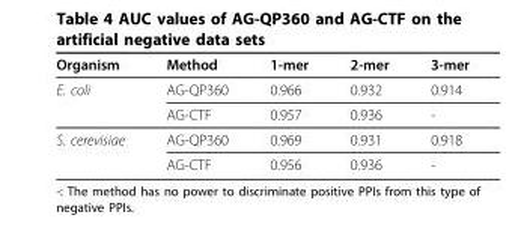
<table><thead><tr><td>Organism</td><td>Method</td><td>1-mer</td><td>2-mer</td><td>3-mer</td></tr></thead><tbody><tr><td rowspan="2">E. coli</td><td>AG-QP360</td><td>0.966</td><td>0.932</td><td>0.914</td></tr><tr><td>AG-CTF</td><td>0.957</td><td>0.936</td><td>-</td></tr><tr><td rowspan="2">S. cerevisiae</td><td>AG-QP360</td><td>0.969</td><td>0.931</td><td>0.918</td></tr><tr><td>AG-CTF</td><td>0.956</td><td>0.936</td><td>-</td></tr></tbody></table>